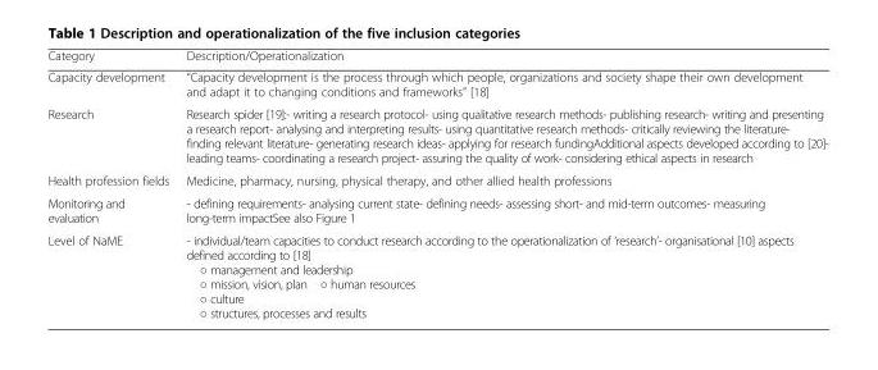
<table><thead><tr><td>Category</td><td>Description/Operationalization</td></tr></thead><tbody><tr><td>Capacity development</td><td>“Capacity development is the process through which people, organizations and society shape their own development and adapt it to changing conditions and frameworks” [18]</td></tr><tr><td>Research</td><td>Research spider [19]:- writing a research protocol- using qualitative research methods- publishing research- writing and presenting a research report- analysing and interpreting results- using quantitative research methods- critically reviewing the literature- finding relevant literature- generating research ideas- applying for research fundingAdditional aspects developed according to [20]- leading teams- coordinating a research project- assuring the quality of work- considering ethical aspects in research</td></tr><tr><td>Health profession fields</td><td>Medicine, pharmacy, nursing, physical therapy, and other allied health professions</td></tr><tr><td>Monitoring and evaluation</td><td>- defining requirements- analysing current state- defining needs- assessing short- and mid-term outcomes- measuring long-term impactSee also Figure 1</td></tr><tr><td>Level of NaME</td><td>- individual/team capacities to conduct research according to the operationalization of ‘research’- organisational [10] aspects defined according to [18] ○ management and leadership ○ mission, vision, plan ○ human resources ○ culture ○ structures, processes and results</td></tr></tbody></table>